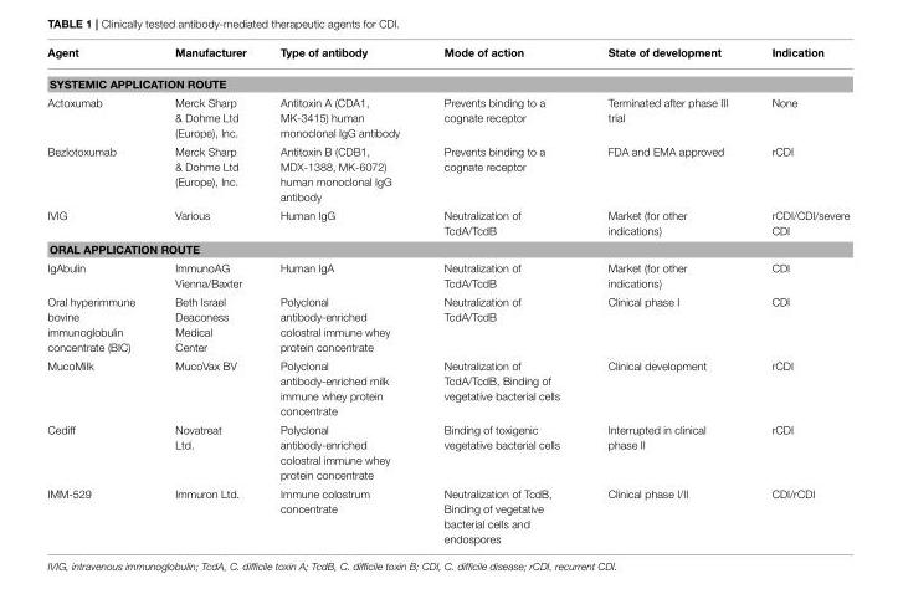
<table><thead><tr><td>Agent</td><td>Manufacturer</td><td>Type of antibody</td><td>Mode of action</td><td>State of development</td><td>Indication</td></tr></thead><tbody><tr><td colspan="6">SYSTEMIC APPLICATION ROUTE</td></tr><tr><td>Actoxumab</td><td>Merck Sharp &amp; Dohme Ltd (Europe), Inc.</td><td>Antitoxin A (CDA1, MK-3415) human monoclonal IgG antibody</td><td>Prevents binding to a cognate receptor</td><td>Terminated after phase III trial</td><td>None</td></tr><tr><td>Bezlotoxumab</td><td>Merck Sharp &amp; Dohme Ltd (Europe), Inc.</td><td>Antitoxin B (CDB1, MDX-1388, MK-6072) human monoclonal IgG antibody</td><td>Prevents binding to a cognate receptor</td><td>FDA and EMA approved</td><td>rCDI</td></tr><tr><td>IVIG</td><td>Various</td><td>Human IgG</td><td>Neutralization of TcdA/TcdB</td><td>Market (for other indications)</td><td>rCDI/CDI/severe CDI</td></tr><tr><td colspan="6">ORAL APPLICATION ROUTE</td></tr><tr><td>IgAbulin</td><td>ImmunoAG Vienna/Baxter</td><td>Human IgA</td><td>Neutralization of TcdA/TcdB</td><td>Market (for other indications)</td><td>CDI</td></tr><tr><td>Oral hyperimmune bovine immunoglobulin concentrate (BIC)</td><td>Beth Israel Deaconess Medical Center</td><td>Polyclonal antibody-enriched colostral immune whey protein concentrate</td><td>Neutralization of TcdA/TcdB</td><td>Clinical phase I</td><td>CDI</td></tr><tr><td>MucoMilk</td><td>MucoVax BV</td><td>Polyclonal antibody-enriched milk immune whey protein concentrate</td><td>Neutralization of TcdA/TcdB, Binding of vegetative bacterial cells</td><td>Clinical development</td><td>rCDI</td></tr><tr><td>Cediff</td><td>Novatreat Ltd.</td><td>Polyclonal antibody-enriched colostral immune whey protein concentrate</td><td>Binding of toxigenic vegetative bacterial cells</td><td>Interrupted in clinical phase II</td><td>rCDI</td></tr><tr><td>IMM-529</td><td>Immuron Ltd.</td><td>Immune colostrum concentrate</td><td>Neutralization of TcdB, Binding of vegetative bacterial cells and endospores</td><td>Clinical phase I/II</td><td>CDI/rCDI</td></tr></tbody></table>